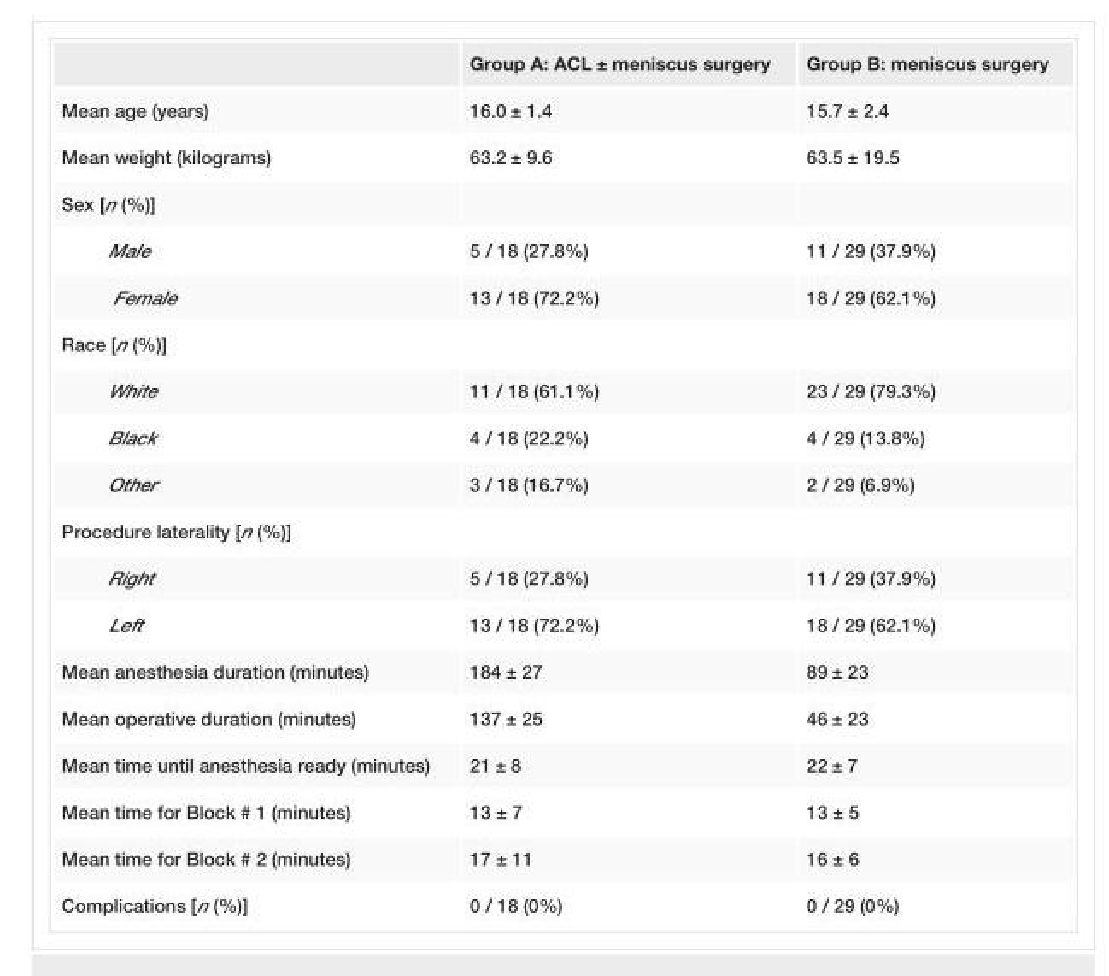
<table><thead><tr><td></td><td>Group A: ACL ± meniscus surgery</td><td>Group B: meniscus surgery</td></tr></thead><tbody><tr><td>Mean age (years)</td><td>16.0 ± 1.4</td><td>15.7 ± 2.4</td></tr><tr><td>Mean weight (kilograms)</td><td>63.2 ± 9.6</td><td>63.5 ± 19.5</td></tr><tr><td colspan="3">Sex [n (%)]</td></tr><tr><td>Male</td><td>5 / 18 (27.8%)</td><td>11 / 29 (37.9%)</td></tr><tr><td>Female</td><td>13 / 18 (72.2%)</td><td>18 / 29 (62.1%)</td></tr><tr><td colspan="3">Race [n (%)]</td></tr><tr><td>White</td><td>11 / 18 (61.1%)</td><td>23 / 29 (79.3%)</td></tr><tr><td>Black</td><td>4 / 18 (22.2%)</td><td>4 / 29 (13.8%)</td></tr><tr><td>Other</td><td>3 / 18 (16.7%)</td><td>2 / 29 (6.9%)</td></tr><tr><td colspan="3">Procedure laterality [n (%)]</td></tr><tr><td>Right</td><td>5 / 18 (27.8%)</td><td>11 / 29 (37.9%)</td></tr><tr><td>Left</td><td>13 / 18 (72.2%)</td><td>18 / 29 (62.1%)</td></tr><tr><td>Mean anesthesia duration (minutes)</td><td>184 ± 27</td><td>89 ± 23</td></tr><tr><td>Mean operative duration (minutes)</td><td>137 ± 25</td><td>46 ± 23</td></tr><tr><td>Mean time until anesthesia ready (minutes)</td><td>21 ± 8</td><td>22 ± 7</td></tr><tr><td>Mean time for Block # 1 (minutes)</td><td>13 ± 7</td><td>13 ± 5</td></tr><tr><td>Mean time for Block # 2 (minutes)</td><td>17 ± 11</td><td>16 ± 6</td></tr><tr><td>Complications [n (%)]</td><td>0 / 18 (0%)</td><td>0 / 29 (0%)</td></tr></tbody></table>